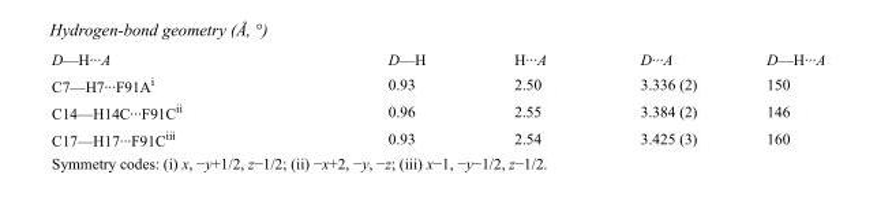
<table><tbody><tr><td>D—H···A</td><td>D—H</td><td>H···A</td><td>D···A</td><td>D—H···A</td></tr><tr><td>C7—H7···F91A<sup>i</sup></td><td>0.93</td><td>2.50</td><td>3.336 (2)</td><td>150</td></tr><tr><td>C14—H14C···F91C<sup>ii</sup></td><td>0.96</td><td>2.55</td><td>3.384 (2)</td><td>146</td></tr><tr><td>C17—H17···F91C<sup>iii</sup></td><td>0.93</td><td>2.54</td><td>3.425 (3)</td><td>160</td></tr></tbody></table>